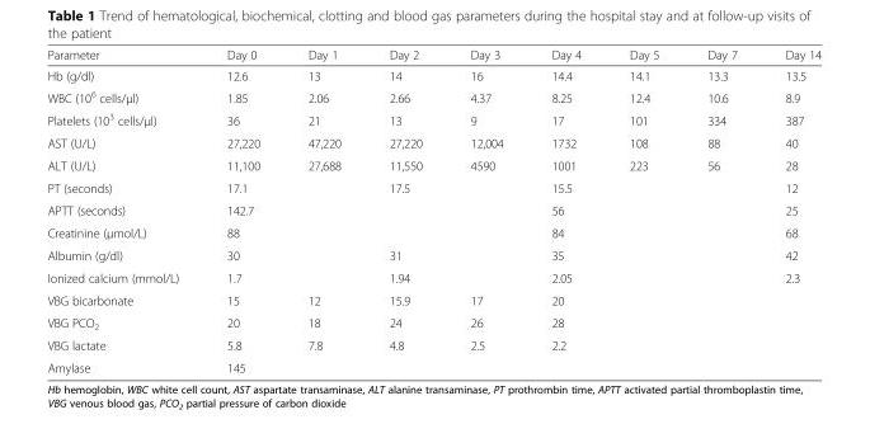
<table><thead><tr><td>Parameter</td><td>Day 0</td><td>Day 1</td><td>Day 2</td><td>Day 3</td><td>Day 4</td><td>Day 5</td><td>Day 7</td><td>Day 14</td></tr></thead><tbody><tr><td>Hb (g/dl)</td><td>12.6</td><td>13</td><td>14</td><td>16</td><td>14.4</td><td>14.1</td><td>13.3</td><td>13.5</td></tr><tr><td>WBC (10<sup>6</sup> cells/μl)</td><td>1.85</td><td>2.06</td><td>2.66</td><td>4.37</td><td>8.25</td><td>12.4</td><td>10.6</td><td>8.9</td></tr><tr><td>Platelets (10<sup>3</sup> cells/μl)</td><td>36</td><td>21</td><td>13</td><td>9</td><td>17</td><td>101</td><td>334</td><td>387</td></tr><tr><td>AST (U/L)</td><td>27,220</td><td>47,220</td><td>27,220</td><td>12,004</td><td>1732</td><td>108</td><td>88</td><td>40</td></tr><tr><td>ALT (U/L)</td><td>11,100</td><td>27,688</td><td>11,550</td><td>4590</td><td>1001</td><td>223</td><td>56</td><td>28</td></tr><tr><td>PT (seconds)</td><td>17.1</td><td></td><td>17.5</td><td></td><td>15.5</td><td></td><td></td><td>12</td></tr><tr><td>APTT (seconds)</td><td>142.7</td><td></td><td></td><td></td><td>56</td><td></td><td></td><td>25</td></tr><tr><td>Creatinine (μmol/L)</td><td>88</td><td></td><td></td><td></td><td>84</td><td></td><td></td><td>68</td></tr><tr><td>Albumin (g/dl)</td><td>30</td><td></td><td>31</td><td></td><td>35</td><td></td><td></td><td>42</td></tr><tr><td>Ionized calcium (mmol/L)</td><td>1.7</td><td></td><td>1.94</td><td></td><td>2.05</td><td></td><td></td><td>2.3</td></tr><tr><td>VBG bicarbonate</td><td>15</td><td>12</td><td>15.9</td><td>17</td><td>20</td><td></td><td></td><td></td></tr><tr><td>VBG PCO<sub>2</sub></td><td>20</td><td>18</td><td>24</td><td>26</td><td>28</td><td></td><td></td><td></td></tr><tr><td>VBG lactate</td><td>5.8</td><td>7.8</td><td>4.8</td><td>2.5</td><td>2.2</td><td></td><td></td><td></td></tr><tr><td>Amylase</td><td>145</td><td></td><td></td><td></td><td></td><td></td><td></td><td></td></tr></tbody></table>